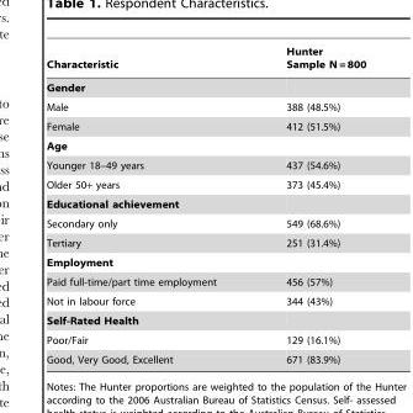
<table><thead><tr><td>Characteristic</td><td>Hunter Sample N = 800</td></tr></thead><tbody><tr><td colspan="2">Gender</td></tr><tr><td>Male</td><td>388 (48.5%)</td></tr><tr><td>Female</td><td>412 (51.5%)</td></tr><tr><td colspan="2">Age</td></tr><tr><td>Younger 18–49 years</td><td>437 (54.6%)</td></tr><tr><td>Older 50+ years</td><td>373 (45.4%)</td></tr><tr><td colspan="2">Educational achievement</td></tr><tr><td>Secondary only</td><td>549 (68.6%)</td></tr><tr><td>Tertiary</td><td>251 (31.4%)</td></tr><tr><td colspan="2">Employment</td></tr><tr><td>Paid full-time/part time employment</td><td>456 (57%)</td></tr><tr><td>Not in labour force</td><td>344 (43%)</td></tr><tr><td colspan="2">Self-Rated Health</td></tr><tr><td>Poor/Fair</td><td>129 (16.1%)</td></tr><tr><td>Good, Very Good, Excellent</td><td>671 (83.9%)</td></tr></tbody></table>